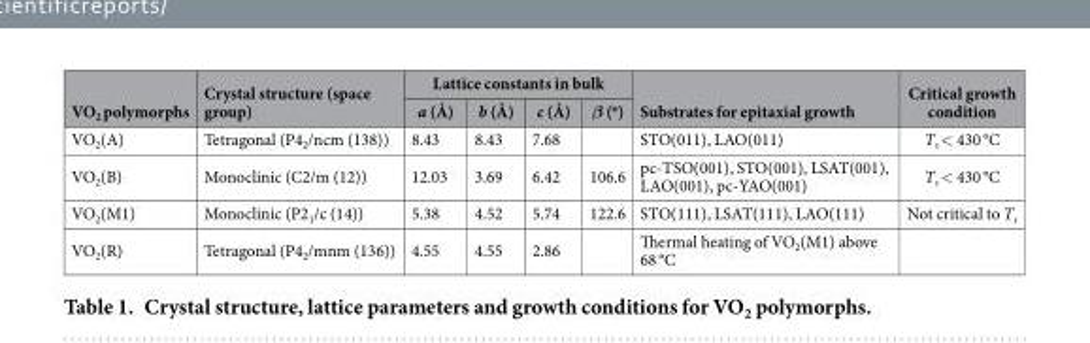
<table><thead><tr><td rowspan="2">VO<sub>2</sub> polymorphs</td><td rowspan="2">Crystal structure (space group)</td><td colspan="4">Lattice constants in bulk</td><td rowspan="2">Substrates for epitaxial growth</td><td rowspan="2">Critical growth condition</td></tr><tr><td>a (Å)</td><td>b (Å)</td><td>c (Å)</td><td>β (<sup>o</sup>)</td></tr></thead><tbody><tr><td>VO<sub>2</sub>(A)</td><td>Tetragonal (P4<sub>2</sub>/ncm (138))</td><td>8.43</td><td>8.43</td><td>7.68</td><td></td><td>STO(011), LAO(011)</td><td>T<sub>s</sub> &lt; 430 °C</td></tr><tr><td>VO<sub>2</sub>(B)</td><td>Monoclinic (C2/m (12))</td><td>12.03</td><td>3.69</td><td>6.42</td><td>106.6</td><td>pc-TSO(001), STO(001), LSAT(001), LAO(001), pc-YAO(001)</td><td>T<sub>s</sub> &lt; 430 °C</td></tr><tr><td>VO<sub>2</sub>(M1)</td><td>Monoclinic (P2<sub>1</sub>/c (14))</td><td>5.38</td><td>4.52</td><td>5.74</td><td>122.6</td><td>STO(111), LSAT(111), LAO(111)</td><td>Not critical to T<sub>s</sub></td></tr><tr><td>VO<sub>2</sub>(R)</td><td>Tetragonal (P4<sub>2</sub>/mnm (136))</td><td>4.55</td><td>4.55</td><td>2.86</td><td></td><td>Thermal heating of VO<sub>2</sub>(M1) above 68 °C</td><td></td></tr></tbody></table>